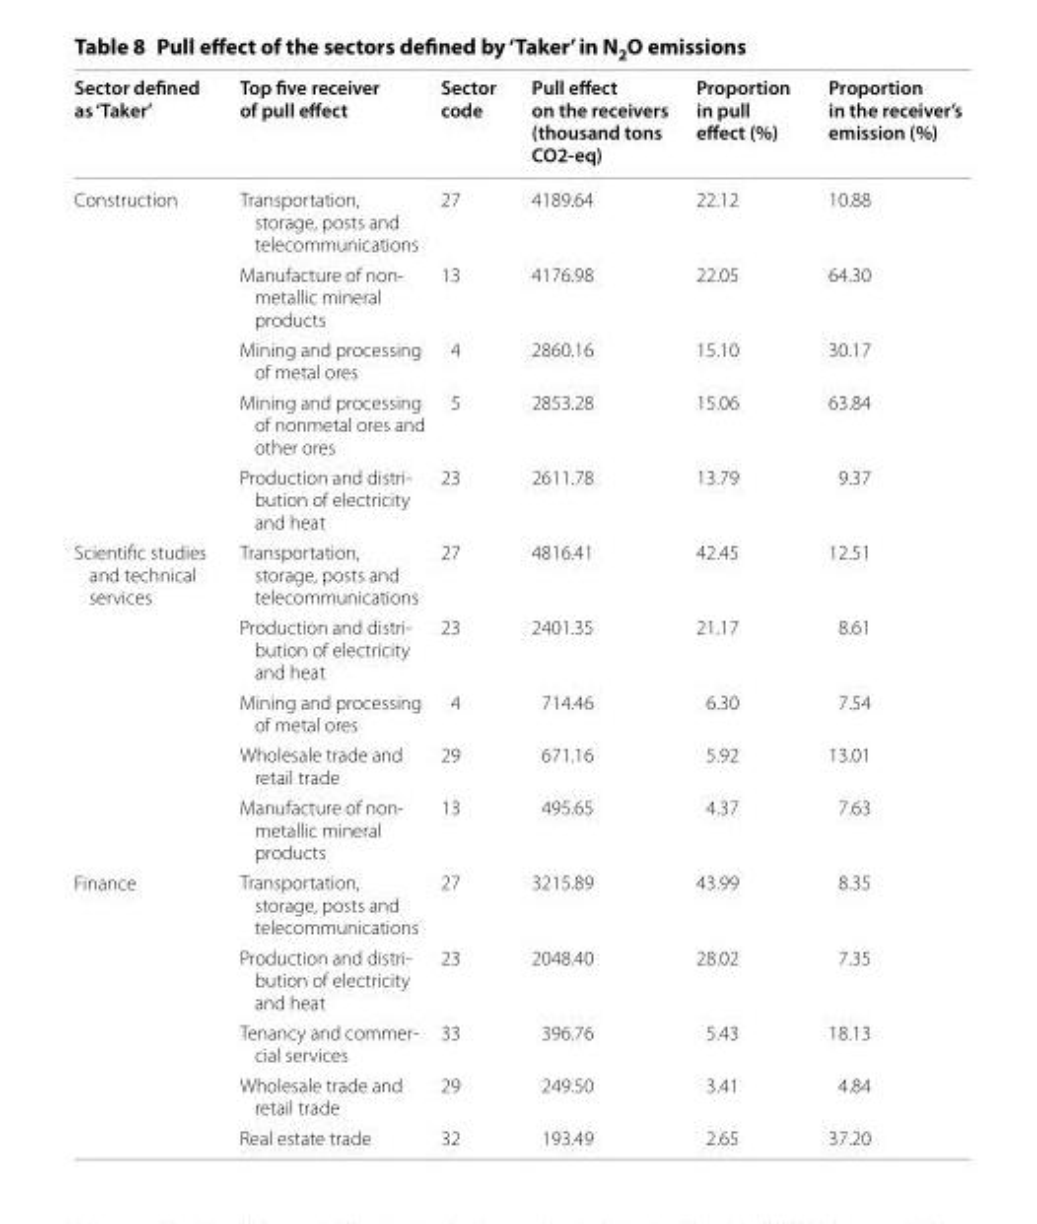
<table><thead><tr><td>Sector defined as ‘Taker’</td><td>Top five receiver of pull effect</td><td>Sector code</td><td>Pull effect on the receivers (thousand tons CO2-eq)</td><td>Proportion in pull effect (%)</td><td>Proportion in the receiver’s emission (%)</td></tr></thead><tbody><tr><td rowspan="5">Construction</td><td>Transportation, storage, posts and telecommunications</td><td>27</td><td>4189.64</td><td>22.12</td><td>10.88</td></tr><tr><td>Manufacture of non- metallic mineral products</td><td>13</td><td>4176.98</td><td>22.05</td><td>64.30</td></tr><tr><td>Mining and processing of metal ores</td><td>4</td><td>2860.16</td><td>15.10</td><td>30.17</td></tr><tr><td>Mining and processing of nonmetal ores and other ores</td><td>5</td><td>2853.28</td><td>15.06</td><td>63.84</td></tr><tr><td>Production and distri- bution of electricity and heat</td><td>23</td><td>2611.78</td><td>13.79</td><td>9.37</td></tr><tr><td rowspan="5">Scientific studies and technical services</td><td>Transportation, storage, posts and telecommunications</td><td>27</td><td>4816.41</td><td>42.45</td><td>12.51</td></tr><tr><td>Production and distri- bution of electricity and heat</td><td>23</td><td>2401.35</td><td>21.17</td><td>8.61</td></tr><tr><td>Mining and processing of metal ores</td><td>4</td><td>714.46</td><td>6.30</td><td>7.54</td></tr><tr><td>Wholesale trade and retail trade</td><td>29</td><td>671.16</td><td>5.92</td><td>13.01</td></tr><tr><td>Manufacture of non- metallic mineral products</td><td>13</td><td>495.65</td><td>4.37</td><td>7.63</td></tr><tr><td rowspan="5">Finance</td><td>Transportation, storage, posts and telecommunications</td><td>27</td><td>3215.89</td><td>43.99</td><td>8.35</td></tr><tr><td>Production and distri- bution of electricity and heat</td><td>23</td><td>2048.40</td><td>28.02</td><td>7.35</td></tr><tr><td>Tenancy and commer- cial services</td><td>33</td><td>396.76</td><td>5.43</td><td>18.13</td></tr><tr><td>Wholesale trade and retail trade</td><td>29</td><td>249.50</td><td>3.41</td><td>4.84</td></tr><tr><td>Real estate trade</td><td>32</td><td>193.49</td><td>2.65</td><td>37.20</td></tr></tbody></table>